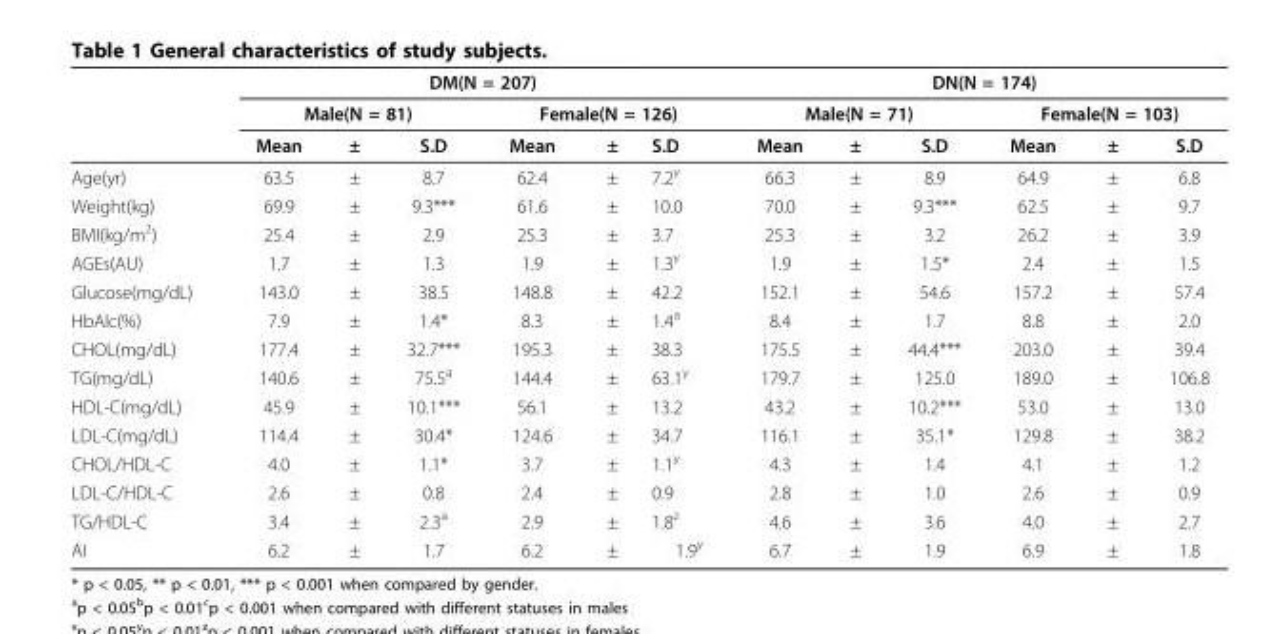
<table><thead><tr><td rowspan="3"></td><td colspan="6">DM(N = 207)</td><td colspan="6">DN(N = 174)</td></tr><tr><td colspan="3">Male(N = 81)</td><td colspan="3">Female(N = 126)</td><td colspan="3">Male(N = 71)</td><td colspan="3">Female(N = 103)</td></tr><tr><td>Mean</td><td>±</td><td>S.D</td><td>Mean</td><td>±</td><td>S.D</td><td>Mean</td><td>±</td><td>S.D</td><td>Mean</td><td>±</td><td>S.D</td></tr></thead><tbody><tr><td>Age(yr)</td><td>63.5</td><td>±</td><td>8.7</td><td>62.4</td><td>±</td><td>7.2<sup>y</sup></td><td>66.3</td><td>±</td><td>8.9</td><td>64.9</td><td>±</td><td>6.8</td></tr><tr><td>Weight(kg)</td><td>69.9</td><td>±</td><td>9.3***</td><td>61.6</td><td>±</td><td>10.0</td><td>70.0</td><td>±</td><td>9.3***</td><td>62.5</td><td>±</td><td>9.7</td></tr><tr><td>BMI(kg/m<sup>2</sup>)</td><td>25.4</td><td>±</td><td>2.9</td><td>25.3</td><td>±</td><td>3.7</td><td>25.3</td><td>±</td><td>3.2</td><td>26.2</td><td>±</td><td>3.9</td></tr><tr><td>AGEs(AU)</td><td>1.7</td><td>±</td><td>1.3</td><td>1.9</td><td>±</td><td>1.3<sup>y</sup></td><td>1.9</td><td>±</td><td>1.5*</td><td>2.4</td><td>±</td><td>1.5</td></tr><tr><td>Glucose(mg/dL)</td><td>143.0</td><td>±</td><td>38.5</td><td>148.8</td><td>±</td><td>42.2</td><td>152.1</td><td>±</td><td>54.6</td><td>157.2</td><td>±</td><td>57.4</td></tr><tr><td>HbAlc(%)</td><td>7.9</td><td>±</td><td>1.4*</td><td>8.3</td><td>±</td><td>1.4<sup>a</sup></td><td>8.4</td><td>±</td><td>1.7</td><td>8.8</td><td>±</td><td>2.0</td></tr><tr><td>CHOL(mg/dL)</td><td>177.4</td><td>±</td><td>32.7***</td><td>195.3</td><td>±</td><td>38.3</td><td>175.5</td><td>±</td><td>44.4***</td><td>203.0</td><td>±</td><td>39.4</td></tr><tr><td>TG(mg/dL)</td><td>140.6</td><td>±</td><td>75.5<sup>a</sup></td><td>144.4</td><td>±</td><td>63.1<sup>y</sup></td><td>179.7</td><td>±</td><td>125.0</td><td>189.0</td><td>±</td><td>106.8</td></tr><tr><td>HDL-C(mg/dL)</td><td>45.9</td><td>±</td><td>10.1***</td><td>56.1</td><td>±</td><td>13.2</td><td>43.2</td><td>±</td><td>10.2***</td><td>53.0</td><td>±</td><td>13.0</td></tr><tr><td>LDL-C(mg/dL)</td><td>114.4</td><td>±</td><td>30.4*</td><td>124.6</td><td>±</td><td>34.7</td><td>116.1</td><td>±</td><td>35.1*</td><td>129.8</td><td>±</td><td>38.2</td></tr><tr><td>CHOL/HDL-C</td><td>4.0</td><td>±</td><td>1.1*</td><td>3.7</td><td>±</td><td>1.1<sup>y</sup></td><td>4.3</td><td>±</td><td>1.4</td><td>4.1</td><td>±</td><td>1.2</td></tr><tr><td>LDL-C/HDL-C</td><td>2.6</td><td>±</td><td>0.8</td><td>2.4</td><td>±</td><td>0.9</td><td>2.8</td><td>±</td><td>1.0</td><td>2.6</td><td>±</td><td>0.9</td></tr><tr><td>TG/HDL-C</td><td>3.4</td><td>±</td><td>2.3<sup>a</sup></td><td>2.9</td><td>±</td><td>1.8<sup>z</sup></td><td>4.6</td><td>±</td><td>3.6</td><td>4.0</td><td>±</td><td>2.7</td></tr><tr><td>AI</td><td>6.2</td><td>±</td><td>1.7</td><td>6.2</td><td>±</td><td>1.9<sup>y</sup></td><td>6.7</td><td>±</td><td>1.9</td><td>6.9</td><td>±</td><td>1.8</td></tr></tbody></table>